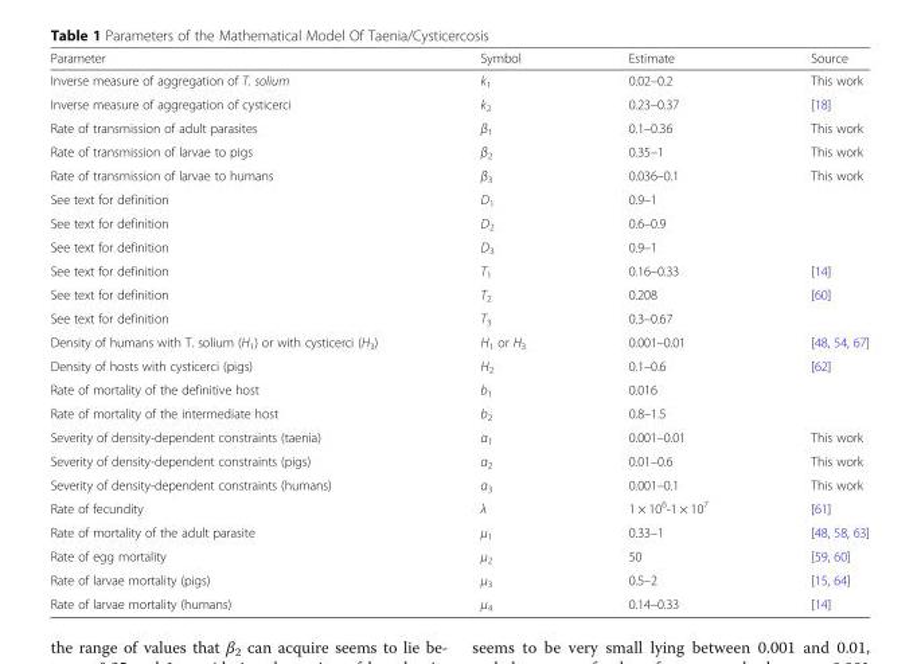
<table><thead><tr><td>Parameter</td><td>Symbol</td><td>Estimate</td><td>Source</td></tr></thead><tbody><tr><td>Inverse measure of aggregation of T. solium</td><td>k<sub>1</sub></td><td>0.02–0.2</td><td>This work</td></tr><tr><td>Inverse measure of aggregation of cysticerci</td><td>k<sub>2</sub></td><td>0.23–0.37</td><td>[18]</td></tr><tr><td>Rate of transmission of adult parasites</td><td>β<sub>1</sub></td><td>0.1–0.36</td><td>This work</td></tr><tr><td>Rate of transmission of larvae to pigs</td><td>β<sub>2</sub></td><td>0.35–1</td><td>This work</td></tr><tr><td>Rate of transmission of larvae to humans</td><td>β<sub>3</sub></td><td>0.036–0.1</td><td>This work</td></tr><tr><td>See text for definition</td><td>D<sub>1</sub></td><td>0.9–1</td><td></td></tr><tr><td>See text for definition</td><td>D<sub>2</sub></td><td>0.6–0.9</td><td></td></tr><tr><td>See text for definition</td><td>D<sub>3</sub></td><td>0.9–1</td><td></td></tr><tr><td>See text for definition</td><td>T<sub>1</sub></td><td>0.16–0.33</td><td>[14]</td></tr><tr><td>See text for definition</td><td>T<sub>2</sub></td><td>0.208</td><td>[60]</td></tr><tr><td>See text for definition</td><td>T<sub>3</sub></td><td>0.3–0.67</td><td></td></tr><tr><td>Density of humans with T. solium (H<sub>1</sub>) or with cysticerci (H<sub>3</sub>)</td><td>H<sub>1</sub> or H<sub>3</sub></td><td>0.001–0.01</td><td>[48, 54, 67]</td></tr><tr><td>Density of hosts with cysticerci (pigs)</td><td>H<sub>2</sub></td><td>0.1–0.6</td><td>[62]</td></tr><tr><td>Rate of mortality of the definitive host</td><td>b<sub>1</sub></td><td>0.016</td><td></td></tr><tr><td>Rate of mortality of the intermediate host</td><td>b<sub>2</sub></td><td>0.8–1.5</td><td></td></tr><tr><td>Severity of density-dependent constraints (taenia)</td><td>α<sub>1</sub></td><td>0.001–0.01</td><td>This work</td></tr><tr><td>Severity of density-dependent constraints (pigs)</td><td>α<sub>2</sub></td><td>0.01–0.6</td><td>This work</td></tr><tr><td>Severity of density-dependent constraints (humans)</td><td>α<sub>3</sub></td><td>0.001–0.1</td><td>This work</td></tr><tr><td>Rate of fecundity</td><td>λ</td><td>1 × 10<sup>6</sup>-1 × 10<sup>7</sup></td><td>[61]</td></tr><tr><td>Rate of mortality of the adult parasite</td><td>μ<sub>1</sub></td><td>0.33–1</td><td>[48, 58, 63]</td></tr><tr><td>Rate of egg mortality</td><td>μ<sub>2</sub></td><td>50</td><td>[59, 60]</td></tr><tr><td>Rate of larvae mortality (pigs)</td><td>μ<sub>3</sub></td><td>0.5–2</td><td>[15, 64]</td></tr><tr><td>Rate of larvae mortality (humans)</td><td>μ<sub>4</sub></td><td>0.14–0.33</td><td>[14]</td></tr></tbody></table>